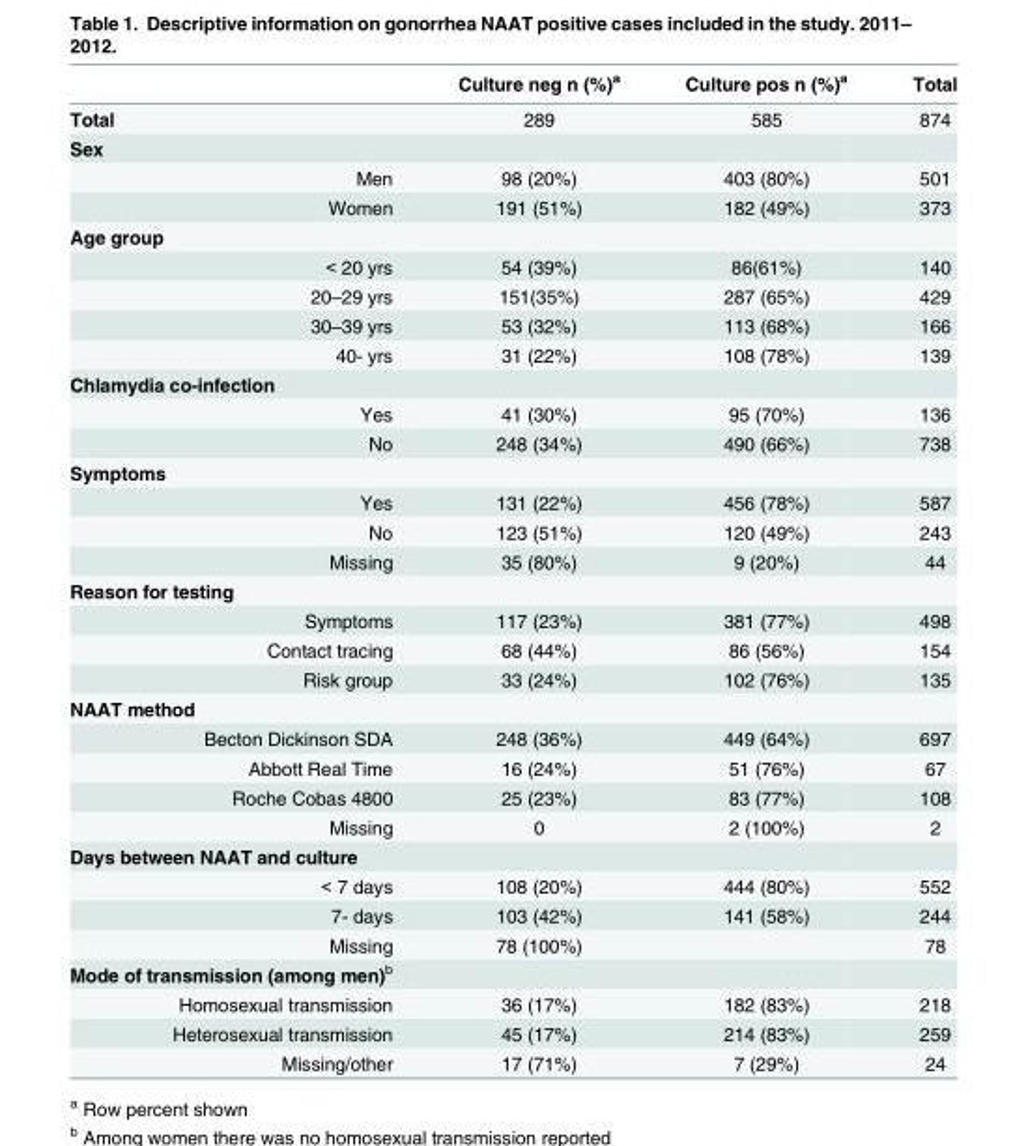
<table><thead><tr><td></td><td>Culture neg n (%)<sup>a</sup></td><td>Culture pos n (%)<sup>a</sup></td><td>Total</td></tr></thead><tbody><tr><td>Total</td><td>289</td><td>585</td><td>874</td></tr><tr><td colspan="4">Sex</td></tr><tr><td>Men</td><td>98 (20%)</td><td>403 (80%)</td><td>501</td></tr><tr><td>Women</td><td>191 (51%)</td><td>182 (49%)</td><td>373</td></tr><tr><td colspan="4">Age group</td></tr><tr><td>&lt; 20 yrs</td><td>54 (39%)</td><td>86(61%)</td><td>140</td></tr><tr><td>20–29 yrs</td><td>151(35%)</td><td>287 (65%)</td><td>429</td></tr><tr><td>30–39 yrs</td><td>53 (32%)</td><td>113 (68%)</td><td>166</td></tr><tr><td>40- yrs</td><td>31 (22%)</td><td>108 (78%)</td><td>139</td></tr><tr><td colspan="4">Chlamydia co-infection</td></tr><tr><td>Yes</td><td>41 (30%)</td><td>95 (70%)</td><td>136</td></tr><tr><td>No</td><td>248 (34%)</td><td>490 (66%)</td><td>738</td></tr><tr><td colspan="4">Symptoms</td></tr><tr><td>Yes</td><td>131 (22%)</td><td>456 (78%)</td><td>587</td></tr><tr><td>No</td><td>123 (51%)</td><td>120 (49%)</td><td>243</td></tr><tr><td>Missing</td><td>35 (80%)</td><td>9 (20%)</td><td>44</td></tr><tr><td colspan="4">Reason for testing</td></tr><tr><td>Symptoms</td><td>117 (23%)</td><td>381 (77%)</td><td>498</td></tr><tr><td>Contact tracing</td><td>68 (44%)</td><td>86 (56%)</td><td>154</td></tr><tr><td>Risk group</td><td>33 (24%)</td><td>102 (76%)</td><td>135</td></tr><tr><td colspan="4">NAAT method</td></tr><tr><td>Becton Dickinson SDA</td><td>248 (36%)</td><td>449 (64%)</td><td>697</td></tr><tr><td>Abbott Real Time</td><td>16 (24%)</td><td>51 (76%)</td><td>67</td></tr><tr><td>Roche Cobas 4800</td><td>25 (23%)</td><td>83 (77%)</td><td>108</td></tr><tr><td>Missing</td><td>0</td><td>2 (100%)</td><td>2</td></tr><tr><td colspan="4">Days between NAAT and culture</td></tr><tr><td>&lt; 7 days</td><td>108 (20%)</td><td>444 (80%)</td><td>552</td></tr><tr><td>7- days</td><td>103 (42%)</td><td>141 (58%)</td><td>244</td></tr><tr><td>Missing</td><td>78 (100%)</td><td></td><td>78</td></tr><tr><td colspan="4">Mode of transmission (among men)<sup>b</sup></td></tr><tr><td>Homosexual transmission</td><td>36 (17%)</td><td>182 (83%)</td><td>218</td></tr><tr><td>Heterosexual transmission</td><td>45 (17%)</td><td>214 (83%)</td><td>259</td></tr><tr><td>Missing/other</td><td>17 (71%)</td><td>7 (29%)</td><td>24</td></tr></tbody></table>